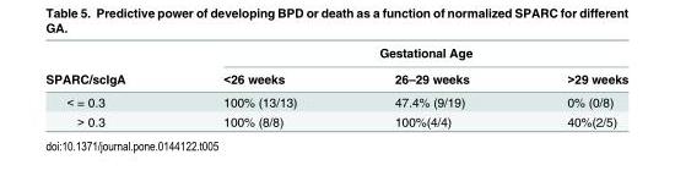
<table><thead><tr><td rowspan="2">SPARC/scIgA</td><td colspan="3">Gestational Age</td></tr><tr><td>&lt;26 weeks</td><td>26–29 weeks</td><td>&gt;29 weeks</td></tr></thead><tbody><tr><td>&lt; = 0.3</td><td>100% (13/13)</td><td>47.4% (9/19)</td><td>0% (0/8)</td></tr><tr><td>&gt; 0.3</td><td>100% (8/8)</td><td>100%(4/4)</td><td>40%(2/5)</td></tr></tbody></table>